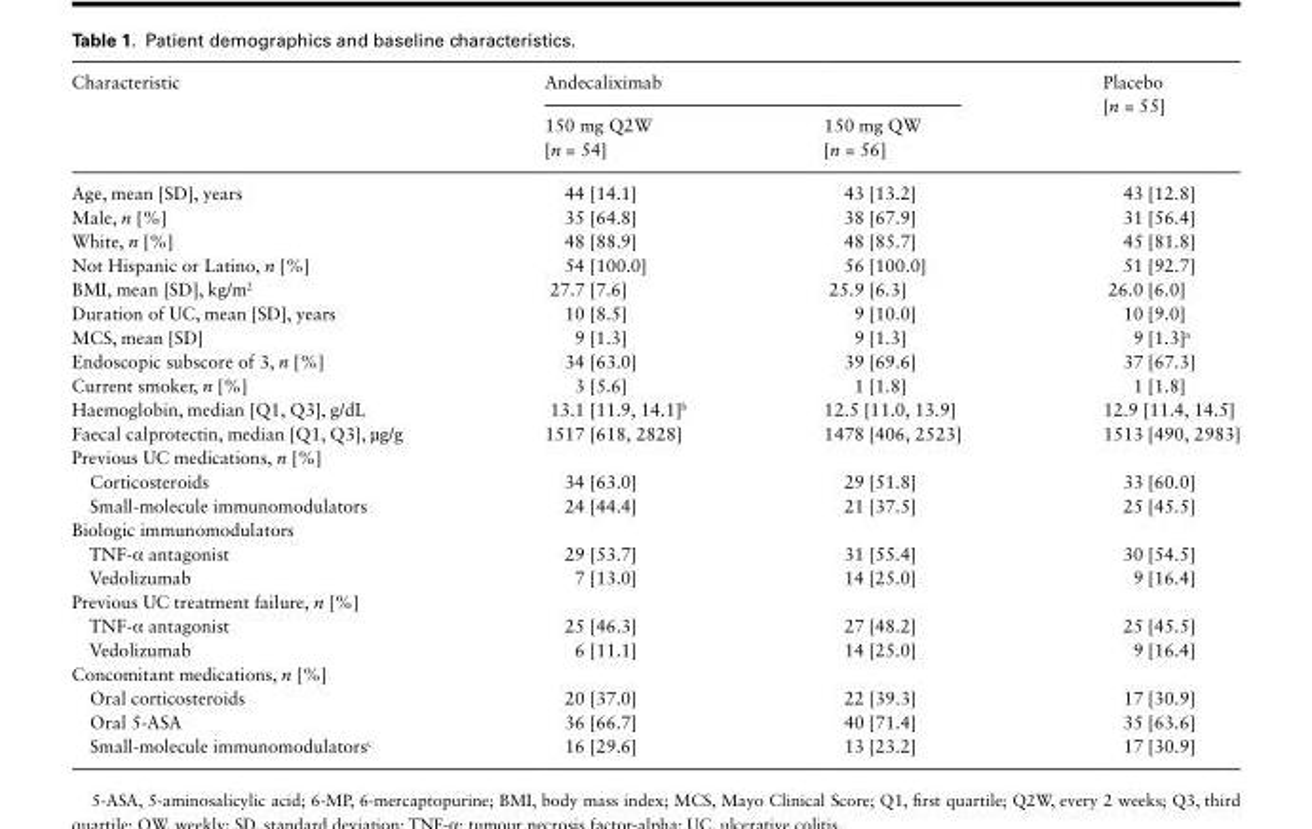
<table><thead><tr><td rowspan="2">Characteristic</td><td colspan="2">Andecaliximab</td><td rowspan="2">Placebo [n = 55]</td></tr><tr><td>150 mg Q2W [n = 54]</td><td>150 mg QW [n = 56]</td></tr></thead><tbody><tr><td>Age, mean [SD], years</td><td>44 [14.1]</td><td>43 [13.2]</td><td>43 [12.8]</td></tr><tr><td>Male, n [%]</td><td>35 [64.8]</td><td>38 [67.9]</td><td>31 [56.4]</td></tr><tr><td>White, n [%]</td><td>48 [88.9]</td><td>48 [85.7]</td><td>45 [81.8]</td></tr><tr><td>Not Hispanic or Latino, n [%]</td><td>54 [100.0]</td><td>56 [100.0]</td><td>51 [92.7]</td></tr><tr><td>BMI, mean [SD], kg/m<sup>2</sup></td><td>27.7 [7.6]</td><td>25.9 [6.3]</td><td>26.0 [6.0]</td></tr><tr><td>Duration of UC, mean [SD], years</td><td>10 [8.5]</td><td>9 [10.0]</td><td>10 [9.0]</td></tr><tr><td>MCS, mean [SD]</td><td>9 [1.3]</td><td>9 [1.3]</td><td>9 [1.3]<sup>a</sup></td></tr><tr><td>Endoscopic subscore of 3, n [%]</td><td>34 [63.0]</td><td>39 [69.6]</td><td>37 [67.3]</td></tr><tr><td>Current smoker, n [%]</td><td>3 [5.6]</td><td>1 [1.8]</td><td>1 [1.8]</td></tr><tr><td>Haemoglobin, median [Q1, Q3], g/dL</td><td>13.1 [11.9, 14.1]<sup>b</sup></td><td>12.5 [11.0, 13.9]</td><td>12.9 [11.4, 14.5]</td></tr><tr><td>Faecal calprotectin, median [Q1, Q3], µg/g</td><td>1517 [618, 2828]</td><td>1478 [406, 2523]</td><td>1513 [490, 2983]</td></tr><tr><td colspan="4">Previous UC medications, n [%]</td></tr><tr><td>Corticosteroids</td><td>34 [63.0]</td><td>29 [51.8]</td><td>33 [60.0]</td></tr><tr><td>Small-molecule immunomodulators</td><td>24 [44.4]</td><td>21 [37.5]</td><td>25 [45.5]</td></tr><tr><td colspan="4">Biologic immunomodulators</td></tr><tr><td>TNF-α antagonist</td><td>29 [53.7]</td><td>31 [55.4]</td><td>30 [54.5]</td></tr><tr><td>Vedolizumab</td><td>7 [13.0]</td><td>14 [25.0]</td><td>9 [16.4]</td></tr><tr><td colspan="4">Previous UC treatment failure, n [%]</td></tr><tr><td>TNF-α antagonist</td><td>25 [46.3]</td><td>27 [48.2]</td><td>25 [45.5]</td></tr><tr><td>Vedolizumab</td><td>6 [11.1]</td><td>14 [25.0]</td><td>9 [16.4]</td></tr><tr><td colspan="4">Concomitant medications, n [%]</td></tr><tr><td>Oral corticosteroids</td><td>20 [37.0]</td><td>22 [39.3]</td><td>17 [30.9]</td></tr><tr><td>Oral 5-ASA</td><td>36 [66.7]</td><td>40 [71.4]</td><td>35 [63.6]</td></tr><tr><td>Small-molecule immunomodulators<sup>c</sup></td><td>16 [29.6]</td><td>13 [23.2]</td><td>17 [30.9]</td></tr></tbody></table>